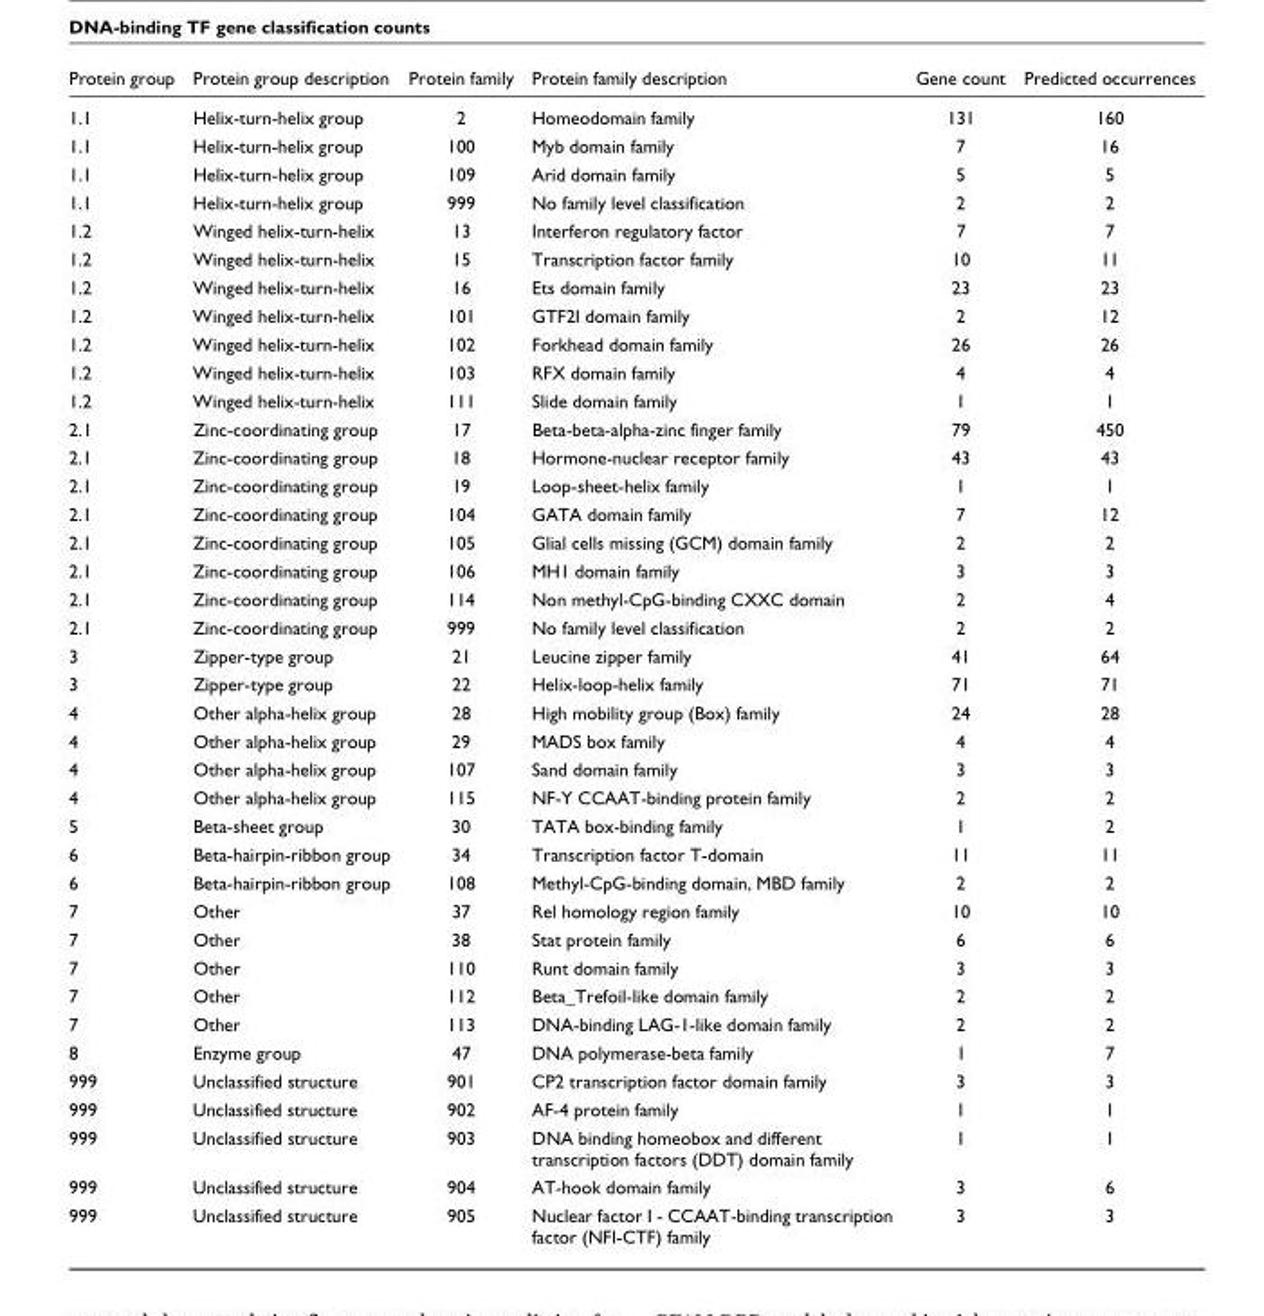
<table><thead><tr><td>Protein group</td><td>Protein group description</td><td>Protein family</td><td>Protein family description</td><td>Gene count</td><td>Predicted occurrences</td></tr></thead><tbody><tr><td>1.1</td><td>Helix-turn-helix group</td><td>2</td><td>Homeodomain family</td><td>131</td><td>160</td></tr><tr><td>1.1</td><td>Helix-turn-helix group</td><td>100</td><td>Myb domain family</td><td>7</td><td>16</td></tr><tr><td>1.1</td><td>Helix-turn-helix group</td><td>109</td><td>Arid domain family</td><td>5</td><td>5</td></tr><tr><td>1.1</td><td>Helix-turn-helix group</td><td>999</td><td>No family level classification</td><td>2</td><td>2</td></tr><tr><td>1.2</td><td>Winged helix-turn-helix</td><td>13</td><td>Interferon regulatory factor</td><td>7</td><td>7</td></tr><tr><td>1.2</td><td>Winged helix-turn-helix</td><td>15</td><td>Transcription factor family</td><td>10</td><td>11</td></tr><tr><td>1.2</td><td>Winged helix-turn-helix</td><td>16</td><td>Ets domain family</td><td>23</td><td>23</td></tr><tr><td>1.2</td><td>Winged helix-turn-helix</td><td>101</td><td>GTF2I domain family</td><td>2</td><td>12</td></tr><tr><td>1.2</td><td>Winged helix-turn-helix</td><td>102</td><td>Forkhead domain family</td><td>26</td><td>26</td></tr><tr><td>1.2</td><td>Winged helix-turn-helix</td><td>103</td><td>RFX domain family</td><td>4</td><td>4</td></tr><tr><td>1.2</td><td>Winged helix-turn-helix</td><td>111</td><td>Slide domain family</td><td>1</td><td>1</td></tr><tr><td>2.1</td><td>Zinc-coordinating group</td><td>17</td><td>Beta-beta-alpha-zinc finger family</td><td>79</td><td>450</td></tr><tr><td>2.1</td><td>Zinc-coordinating group</td><td>18</td><td>Hormone-nuclear receptor family</td><td>43</td><td>43</td></tr><tr><td>2.1</td><td>Zinc-coordinating group</td><td>19</td><td>Loop-sheet-helix family</td><td>1</td><td>1</td></tr><tr><td>2.1</td><td>Zinc-coordinating group</td><td>104</td><td>GATA domain family</td><td>7</td><td>12</td></tr><tr><td>2.1</td><td>Zinc-coordinating group</td><td>105</td><td>Glial cells missing (GCM) domain family</td><td>2</td><td>2</td></tr><tr><td>2.1</td><td>Zinc-coordinating group</td><td>106</td><td>MH1 domain family</td><td>3</td><td>3</td></tr><tr><td>2.1</td><td>Zinc-coordinating group</td><td>114</td><td>Non methyl-CpG-binding CXXC domain</td><td>2</td><td>4</td></tr><tr><td>2.1</td><td>Zinc-coordinating group</td><td>999</td><td>No family level classification</td><td>2</td><td>2</td></tr><tr><td>3</td><td>Zipper-type group</td><td>21</td><td>Leucine zipper family</td><td>41</td><td>64</td></tr><tr><td>3</td><td>Zipper-type group</td><td>22</td><td>Helix-loop-helix family</td><td>71</td><td>71</td></tr><tr><td>4</td><td>Other alpha-helix group</td><td>28</td><td>High mobility group (Box) family</td><td>24</td><td>28</td></tr><tr><td>4</td><td>Other alpha-helix group</td><td>29</td><td>MADS box family</td><td>4</td><td>4</td></tr><tr><td>4</td><td>Other alpha-helix group</td><td>107</td><td>Sand domain family</td><td>3</td><td>3</td></tr><tr><td>4</td><td>Other alpha-helix group</td><td>115</td><td>NF-Y CCAAT-binding protein family</td><td>2</td><td>2</td></tr><tr><td>5</td><td>Beta-sheet group</td><td>30</td><td>TATA box-binding family</td><td>1</td><td>2</td></tr><tr><td>6</td><td>Beta-hairpin-ribbon group</td><td>34</td><td>Transcription factor T-domain</td><td>11</td><td>11</td></tr><tr><td>6</td><td>Beta-hairpin-ribbon group</td><td>108</td><td>Methyl-CpG-binding domain, MBD family</td><td>2</td><td>2</td></tr><tr><td>7</td><td>Other</td><td>37</td><td>Rel homology region family</td><td>10</td><td>10</td></tr><tr><td>7</td><td>Other</td><td>38</td><td>Stat protein family</td><td>6</td><td>6</td></tr><tr><td>7</td><td>Other</td><td>110</td><td>Runt domain family</td><td>3</td><td>3</td></tr><tr><td>7</td><td>Other</td><td>112</td><td>Beta_Trefoil-like domain family</td><td>2</td><td>2</td></tr><tr><td>7</td><td>Other</td><td>113</td><td>DNA-binding LAG-1-like domain family</td><td>2</td><td>2</td></tr><tr><td>8</td><td>Enzyme group</td><td>47</td><td>DNA polymerase-beta family</td><td>1</td><td>7</td></tr><tr><td>999</td><td>Unclassified structure</td><td>901</td><td>CP2 transcription factor domain family</td><td>3</td><td>3</td></tr><tr><td>999</td><td>Unclassified structure</td><td>902</td><td>AF-4 protein family</td><td>1</td><td>1</td></tr><tr><td>999</td><td>Unclassified structure</td><td>903</td><td>DNA binding homeobox and different transcription factors (DDT) domain family</td><td>1</td><td>1</td></tr><tr><td>999</td><td>Unclassified structure</td><td>904</td><td>AT-hook domain family</td><td>3</td><td>6</td></tr><tr><td>999</td><td>Unclassified structure</td><td>905</td><td>Nuclear factor I - CCAAT-binding transcription factor (NFI-CTF) family</td><td>3</td><td>3</td></tr></tbody></table>